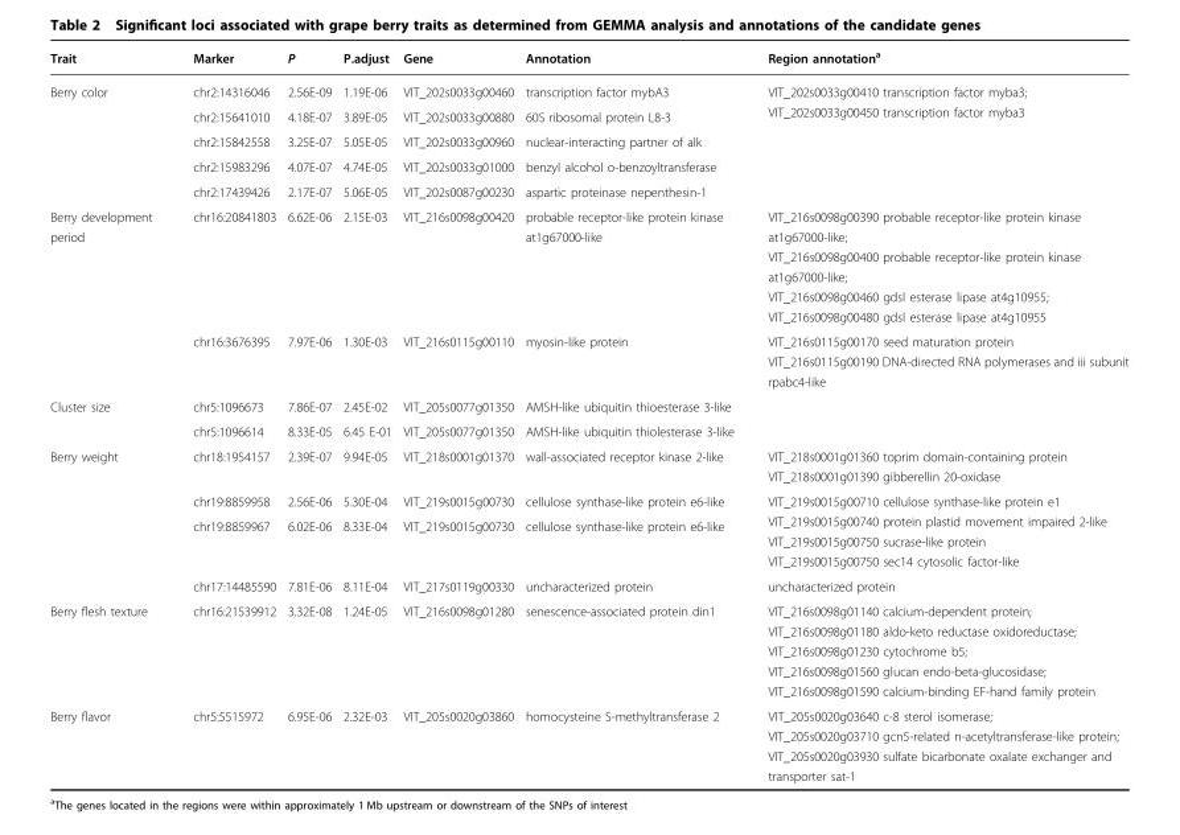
<table><thead><tr><td>Trait</td><td>Marker</td><td>P</td><td>P.adjust</td><td>Gene</td><td>Annotation</td><td>Region annotation<sup>a</sup></td></tr></thead><tbody><tr><td rowspan="5">Berry color</td><td>chr2:14316046</td><td>2.56E-09</td><td>1.19E-06</td><td>VIT_202s0033g00460</td><td>transcription factor mybA3</td><td rowspan="5">VIT_202s0033g00410 transcription factor myba3; VIT_202s0033g00450 transcription factor myba3</td></tr><tr><td>chr2:15641010</td><td>4.18E-07</td><td>3.89E-05</td><td>VIT_202s0033g00880</td><td>60S ribosomal protein L8-3</td></tr><tr><td>chr2:15842558</td><td>3.25E-07</td><td>5.05E-05</td><td>VIT_202s0033g00960</td><td>nuclear-interacting partner of alk</td></tr><tr><td>chr2:15983296</td><td>4.07E-07</td><td>4.74E-05</td><td>VIT_202s0033g01000</td><td>benzyl alcohol o-benzoyltransferase</td></tr><tr><td>chr2:17439426</td><td>2.17E-07</td><td>5.06E-05</td><td>VIT_202s0087g00230</td><td>aspartic proteinase nepenthesin-1</td></tr><tr><td rowspan="2">Berry development period</td><td>chr16:20841803</td><td>6.62E-06</td><td>2.15E-03</td><td>VIT_216s0098g00420</td><td>probable receptor-like protein kinase at1g67000-like</td><td>VIT_216s0098g00390 probable receptor-like protein kinase at1g67000-like; VIT_216s0098g00400 probable receptor-like protein kinase at1g67000-like; VIT_216s0098g00460 gdsl esterase lipase at4g10955; VIT_216s0098g00480 gdsl esterase lipase at4g10955</td></tr><tr><td>chr16:3676395</td><td>7.97E-06</td><td>1.30E-03</td><td>VIT_216s0115g00110</td><td>myosin-like protein</td><td>VIT_216s0115g00170 seed maturation protein VIT_216s0115g00190 DNA-directed RNA polymerases and iii subunit rpabc4-like</td></tr><tr><td rowspan="2">Cluster size</td><td>chr5:1096673</td><td>7.86E-07</td><td>2.45E-02</td><td>VIT_205s0077g01350</td><td>AMSH-like ubiquitin thioesterase 3-like</td><td></td></tr><tr><td>chr5:1096614</td><td>8.33E-05</td><td>6.45 E-01</td><td>VIT_205s0077g01350</td><td>AMSH-like ubiquitin thiolesterase 3-like</td><td></td></tr><tr><td rowspan="4">Berry weight</td><td>chr18:1954157</td><td>2.39E-07</td><td>9.94E-05</td><td>VIT_218s0001g01370</td><td>wall-associated receptor kinase 2-like</td><td>VIT_218s0001g01360 toprim domain-containing protein VIT_218s0001g01390 gibberellin 20-oxidase</td></tr><tr><td>chr19:8859958</td><td>2.56E-06</td><td>5.30E-04</td><td>VIT_219s0015g00730</td><td>cellulose synthase-like protein e6-like</td><td rowspan="2">VIT_219s0015g00710 cellulose synthase-like protein e1 VIT_219s0015g00740 protein plastid movement impaired 2-like VIT_219s0015g00750 sucrase-like protein VIT_219s0015g00750 sec14 cytosolic factor-like</td></tr><tr><td>chr19:8859967</td><td>6.02E-06</td><td>8.33E-04</td><td>VIT_219s0015g00730</td><td>cellulose synthase-like protein e6-like</td></tr><tr><td>chr17:14485590</td><td>7.81E-06</td><td>8.11E-04</td><td>VIT_217s0119g00330</td><td>uncharacterized protein</td><td>uncharacterized protein</td></tr><tr><td>Berry flesh texture</td><td>chr16:21539912</td><td>3.32E-08</td><td>1.24E-05</td><td>VIT_216s0098g01280</td><td>senescence-associated protein din1</td><td>VIT_216s0098g01140 calcium-dependent protein; VIT_216s0098g01180 aldo-keto reductase oxidoreductase; VIT_216s0098g01230 cytochrome b5; VIT_216s0098g01560 glucan endo-beta-glucosidase; VIT_216s0098g01590 calcium-binding EF-hand family protein</td></tr><tr><td>Berry flavor</td><td>chr5:5515972</td><td>6.95E-06</td><td>2.32E-03</td><td>VIT_205s0020g03860</td><td>homocysteine S-methyltransferase 2</td><td>VIT_205s0020g03640 c-8 sterol isomerase; VIT_205s0020g03710 gcn5-related n-acetyltransferase-like protein; VIT_205s0020g03930 sulfate bicarbonate oxalate exchanger and transporter sat-1</td></tr></tbody></table>